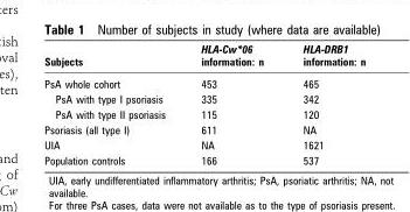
<table><thead><tr><td>Subjects</td><td>HLA-Cw*06 information: n</td><td>HLA-DRB1 information: n</td></tr></thead><tbody><tr><td>PsA whole cohort</td><td>453</td><td>465</td></tr><tr><td>PsA with type I psoriasis</td><td>335</td><td>342</td></tr><tr><td>PsA with type II psoriasis</td><td>115</td><td>120</td></tr><tr><td>Psoriasis (all type I)</td><td>611</td><td>NA</td></tr><tr><td>UIA</td><td>NA</td><td>1621</td></tr><tr><td>Population controls</td><td>166</td><td>537</td></tr></tbody></table>